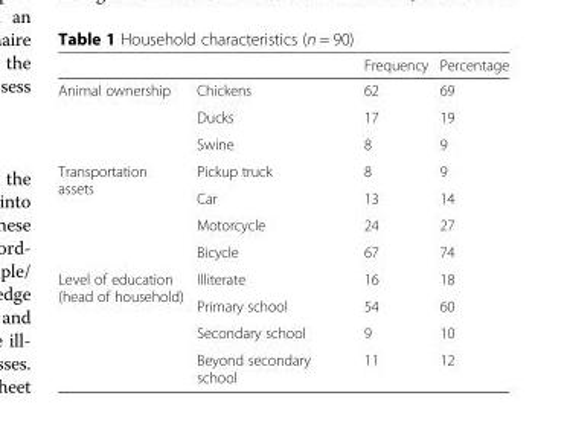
<table><thead><tr><td></td><td></td><td>Frequency</td><td>Percentage</td></tr></thead><tbody><tr><td rowspan="3">Animal ownership</td><td>Chickens</td><td>62</td><td>69</td></tr><tr><td>Ducks</td><td>17</td><td>19</td></tr><tr><td>Swine</td><td>8</td><td>9</td></tr><tr><td rowspan="4">Transportation assets</td><td>Pickup truck</td><td>8</td><td>9</td></tr><tr><td>Car</td><td>13</td><td>14</td></tr><tr><td>Motorcycle</td><td>24</td><td>27</td></tr><tr><td>Bicycle</td><td>67</td><td>74</td></tr><tr><td rowspan="4">Level of education (head of household)</td><td>Illiterate</td><td>16</td><td>18</td></tr><tr><td>Primary school</td><td>54</td><td>60</td></tr><tr><td>Secondary school</td><td>9</td><td>10</td></tr><tr><td>Beyond secondary school</td><td>11</td><td>12</td></tr></tbody></table>